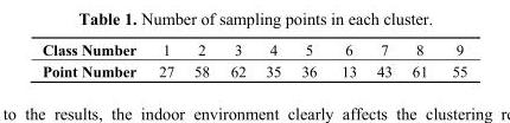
<table><tbody><tr><td>Class Number</td><td>1</td><td>2</td><td>3</td><td>4</td><td>5</td><td>6</td><td>7</td><td>8</td><td>9</td></tr><tr><td>Point Number</td><td>27</td><td>58</td><td>62</td><td>35</td><td>36</td><td>13</td><td>43</td><td>61</td><td>55</td></tr></tbody></table>